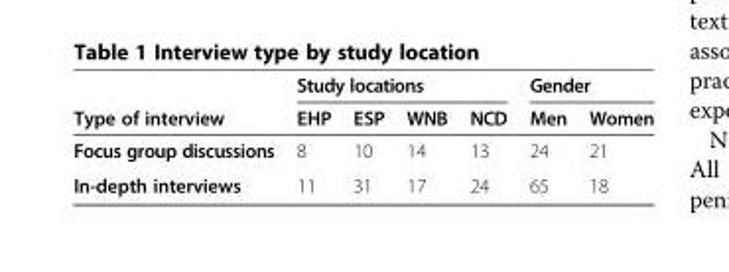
<table><thead><tr><td rowspan="2">Type of interview</td><td colspan="4">Study locations</td><td colspan="2">Gender</td></tr><tr><td>EHP</td><td>ESP</td><td>WNB</td><td>NCD</td><td>Men</td><td>Women</td></tr></thead><tbody><tr><td>Focus group discussions</td><td>8</td><td>10</td><td>14</td><td>13</td><td>24</td><td>21</td></tr><tr><td>In-depth interviews</td><td>11</td><td>31</td><td>17</td><td>24</td><td>65</td><td>18</td></tr></tbody></table>